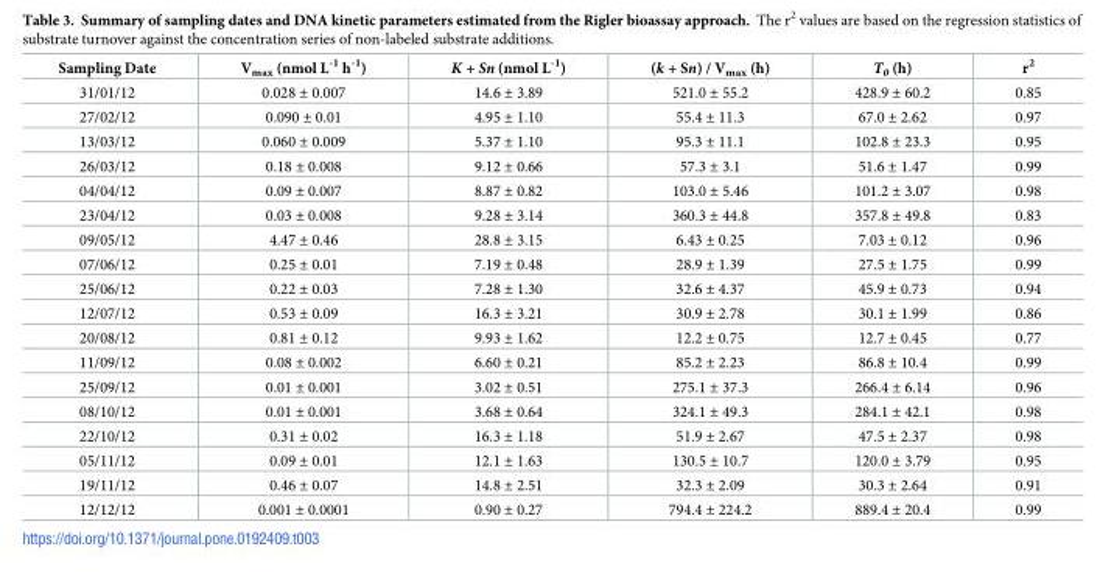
<table><thead><tr><td>Sampling Date</td><td>V<sub>max</sub> (nmol L<sup>-1</sup> h<sup>-1</sup>)</td><td>K + Sn (nmol L<sup>-1</sup>)</td><td>(k + Sn) / V<sub>max</sub> (h)</td><td>T<sub>0</sub> (h)</td><td>r<sup>2</sup></td></tr></thead><tbody><tr><td>31/01/12</td><td>0.028 ± 0.007</td><td>14.6 ± 3.89</td><td>521.0 ± 55.2</td><td>428.9 ± 60.2</td><td>0.85</td></tr><tr><td>27/02/12</td><td>0.090 ± 0.01</td><td>4.95 ± 1.10</td><td>55.4 ± 11.3</td><td>67.0 ± 2.62</td><td>0.97</td></tr><tr><td>13/03/12</td><td>0.060 ± 0.009</td><td>5.37 ± 1.10</td><td>95.3 ± 11.1</td><td>102.8 ± 23.3</td><td>0.95</td></tr><tr><td>26/03/12</td><td>0.18 ± 0.008</td><td>9.12 ± 0.66</td><td>57.3 ± 3.1</td><td>51.6 ± 1.47</td><td>0.99</td></tr><tr><td>04/04/12</td><td>0.09 ± 0.007</td><td>8.87 ± 0.82</td><td>103.0 ± 5.46</td><td>101.2 ± 3.07</td><td>0.98</td></tr><tr><td>23/04/12</td><td>0.03 ± 0.008</td><td>9.28 ± 3.14</td><td>360.3 ± 44.8</td><td>357.8 ± 49.8</td><td>0.83</td></tr><tr><td>09/05/12</td><td>4.47 ± 0.46</td><td>28.8 ± 3.15</td><td>6.43 ± 0.25</td><td>7.03 ± 0.12</td><td>0.96</td></tr><tr><td>07/06/12</td><td>0.25 ± 0.01</td><td>7.19 ± 0.48</td><td>28.9 ± 1.39</td><td>27.5 ± 1.75</td><td>0.99</td></tr><tr><td>25/06/12</td><td>0.22 ± 0.03</td><td>7.28 ± 1.30</td><td>32.6 ± 4.37</td><td>45.9 ± 0.73</td><td>0.94</td></tr><tr><td>12/07/12</td><td>0.53 ± 0.09</td><td>16.3 ± 3.21</td><td>30.9 ± 2.78</td><td>30.1 ± 1.99</td><td>0.86</td></tr><tr><td>20/08/12</td><td>0.81 ± 0.12</td><td>9.93 ± 1.62</td><td>12.2 ± 0.75</td><td>12.7 ± 0.45</td><td>0.77</td></tr><tr><td>11/09/12</td><td>0.08 ± 0.002</td><td>6.60 ± 0.21</td><td>85.2 ± 2.23</td><td>86.8 ± 10.4</td><td>0.99</td></tr><tr><td>25/09/12</td><td>0.01 ± 0.001</td><td>3.02 ± 0.51</td><td>275.1 ± 37.3</td><td>266.4 ± 6.14</td><td>0.96</td></tr><tr><td>08/10/12</td><td>0.01 ± 0.001</td><td>3.68 ± 0.64</td><td>324.1 ± 49.3</td><td>284.1 ± 42.1</td><td>0.98</td></tr><tr><td>22/10/12</td><td>0.31 ± 0.02</td><td>16.3 ± 1.18</td><td>51.9 ± 2.67</td><td>47.5 ± 2.37</td><td>0.98</td></tr><tr><td>05/11/12</td><td>0.09 ± 0.01</td><td>12.1 ± 1.63</td><td>130.5 ± 10.7</td><td>120.0 ± 3.79</td><td>0.95</td></tr><tr><td>19/11/12</td><td>0.46 ± 0.07</td><td>14.8 ± 2.51</td><td>32.3 ± 2.09</td><td>30.3 ± 2.64</td><td>0.91</td></tr><tr><td>12/12/12</td><td>0.001 ± 0.0001</td><td>0.90 ± 0.27</td><td>794.4 ± 224.2</td><td>889.4 ± 20.4</td><td>0.99</td></tr></tbody></table>